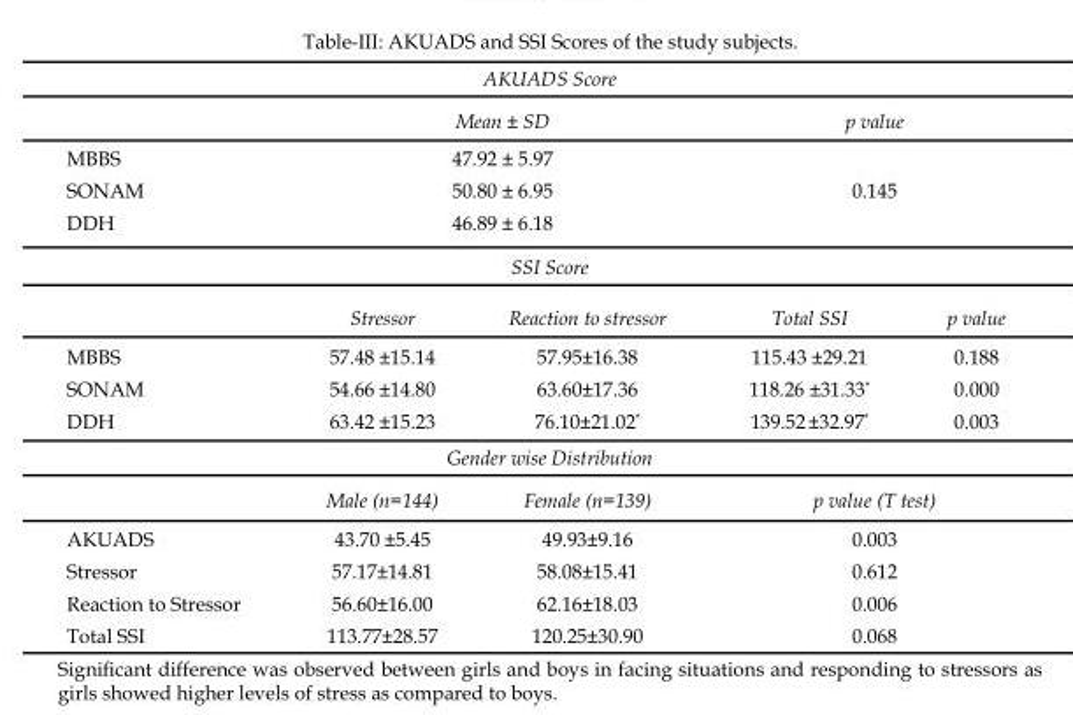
<table><thead><tr><td colspan="5">AKUADS Score</td></tr><tr><td></td><td colspan="2">Mean ± SD</td><td colspan="2">p value</td></tr></thead><tbody><tr><td>MBBS</td><td colspan="2">47.92 ± 5.97</td><td rowspan="3" colspan="2">0.145</td></tr><tr><td>SONAM</td><td colspan="2">50.80 ± 6.95</td></tr><tr><td>DDH</td><td colspan="2">46.89 ± 6.18</td></tr><tr><td colspan="5">SSI Score</td></tr><tr><td></td><td>Stressor</td><td>Reaction to stressor</td><td>Total SSI</td><td>p value</td></tr><tr><td>MBBS</td><td>57.48 ±15.14</td><td>57.95±16.38</td><td>115.43 ±29.21</td><td>0.188</td></tr><tr><td>SONAM</td><td>54.66 ±14.80</td><td>63.60±17.36</td><td>118.26 ±31.33*</td><td>0.000</td></tr><tr><td>DDH</td><td>63.42 ±15.23</td><td>76.10±21.02*</td><td>139.52 ±32.97*</td><td>0.003</td></tr><tr><td colspan="5">Gender wise Distribution</td></tr><tr><td></td><td>Male (n=144)</td><td>Female (n=139)</td><td colspan="2">p value (T test)</td></tr><tr><td>AKUADS</td><td>43.70 ±5.45</td><td>49.93±9.16</td><td colspan="2">0.003</td></tr><tr><td>Stressor</td><td>57.17±14.81</td><td>58.08±15.41</td><td colspan="2">0.612</td></tr><tr><td>Reaction to Stressor</td><td>56.60±16.00</td><td>62.16±18.03</td><td colspan="2">0.006</td></tr><tr><td>Total SSI</td><td>113.77±28.57</td><td>120.25±30.90</td><td colspan="2">0.068</td></tr></tbody></table>